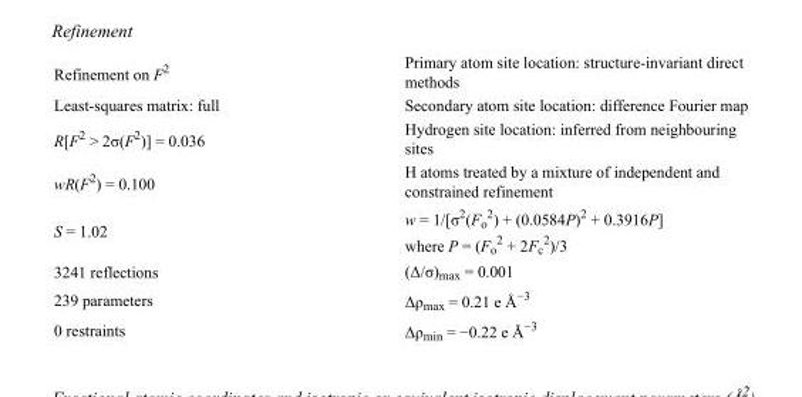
<table><tbody><tr><td>Refinement on F<sup>2</sup></td><td>Primary atom site location: structure-invariant direct methods</td></tr><tr><td>Least-squares matrix: full</td><td>Secondary atom site location: difference Fourier map</td></tr><tr><td>R[F<sup>2</sup> &gt; 2σ(F<sup>2</sup>)] = 0.036</td><td>Hydrogen site location: inferred from neighbouring sites</td></tr><tr><td>wR(F<sup>2</sup>) = 0.100</td><td>H atoms treated by a mixture of independent and constrained refinement</td></tr><tr><td>S = 1.02</td><td>w = 1/[σ<sup>2</sup>(F<sub>o</sub> <sup>2</sup>) + (0.0584P)<sup>2</sup> + 0.3916P] where P = (F<sub>o</sub> <sup>2</sup> + 2F<sub>c</sub> <sup>2</sup>)/3</td></tr><tr><td>3241 reflections</td><td>(Δ/σ)<sub>max</sub> = 0.001</td></tr><tr><td>239 parameters</td><td>Δρ<sub>max</sub> = 0.21 e Å<sup>−3</sup></td></tr><tr><td>0 restraints</td><td>Δρ<sub>min</sub> = −0.22 e Å<sup>−3</sup></td></tr></tbody></table>